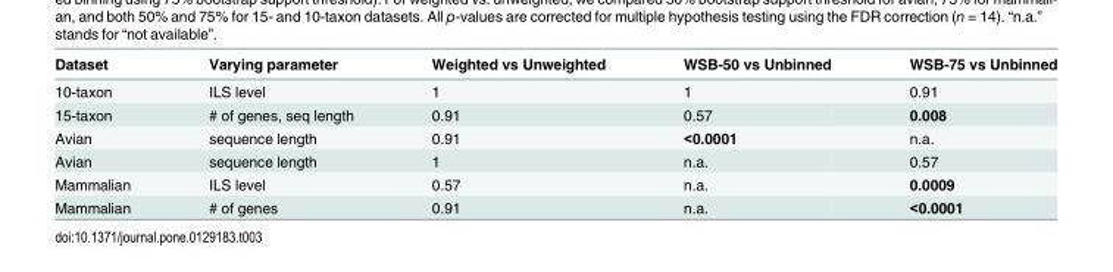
<table><thead><tr><td>Dataset</td><td>Varying parameter</td><td>Weighted vs Unweighted</td><td>WSB-50 vs Unbinned</td><td>WSB-75 vs Unbinned</td></tr></thead><tbody><tr><td>10-taxon</td><td>ILS level</td><td>1</td><td>1</td><td>0.91</td></tr><tr><td>15-taxon</td><td># of genes, seq length</td><td>0.91</td><td>0.57</td><td>0.008</td></tr><tr><td>Avian</td><td>sequence length</td><td>0.91</td><td>&lt;0.0001</td><td>n.a.</td></tr><tr><td>Avian</td><td>sequence length</td><td>1</td><td>n.a.</td><td>0.57</td></tr><tr><td>Mammalian</td><td>ILS level</td><td>0.57</td><td>n.a.</td><td>0.0009</td></tr><tr><td>Mammalian</td><td># of genes</td><td>0.91</td><td>n.a.</td><td>&lt;0.0001</td></tr></tbody></table>